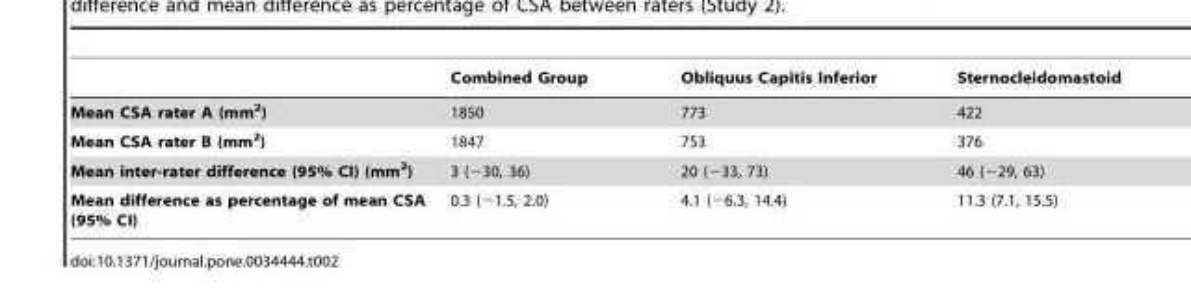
<table><thead><tr><td></td><td>Combined Group</td><td>Obliquus Capitis Inferior</td><td>Sternocleidomastoid</td></tr></thead><tbody><tr><td>Mean CSA rater A (mm<sup>2</sup>)</td><td>1850</td><td>773</td><td>422</td></tr><tr><td>Mean CSA rater B (mm<sup>2</sup>)</td><td>1847</td><td>753</td><td>376</td></tr><tr><td>Mean inter-rater difference (95% CI) (mm<sup>2</sup>)</td><td>3 (−30, 36)</td><td>20 (−33, 73)</td><td>46 (−29, 63)</td></tr><tr><td>Mean difference as percentage of mean CSA (95% CI)</td><td>0.3 (−1.5, 2.0)</td><td>4.1 (−6.3, 14.4)</td><td>11.3 (7.1, 15.5)</td></tr></tbody></table>